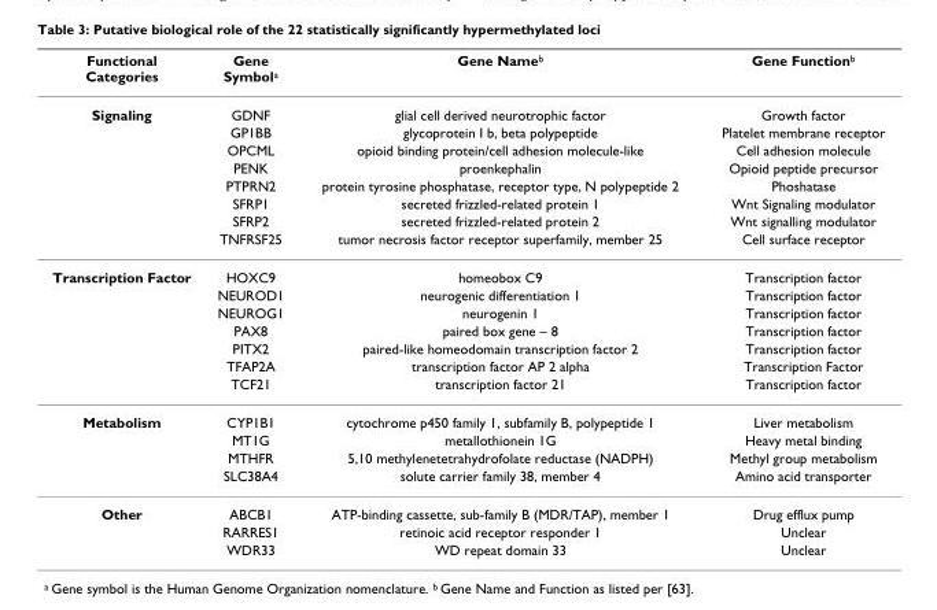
<table><thead><tr><td>Functional Categories</td><td>Gene Symbol<sup>a</sup></td><td>Gene Name<sup>b</sup></td><td>Gene Function<sup>b</sup></td></tr></thead><tbody><tr><td rowspan="8">Signaling</td><td>GDNF</td><td>glial cell derived neurotrophic factor</td><td>Growth factor</td></tr><tr><td>GP1BB</td><td>glycoprotein I b, beta polypeptide</td><td>Platelet membrane receptor</td></tr><tr><td>OPCML</td><td>opioid binding protein/cell adhesion molecule-like</td><td>Cell adhesion molecule</td></tr><tr><td>PENK</td><td>proenkephalin</td><td>Opioid peptide precursor</td></tr><tr><td>PTPRN2</td><td>protein tyrosine phosphatase, receptor type, N polypeptide 2</td><td>Phoshatase</td></tr><tr><td>SFRP1</td><td>secreted frizzled-related protein 1</td><td>Wnt Signaling modulator</td></tr><tr><td>SFRP2</td><td>secreted frizzled-related protein 2</td><td>Wnt signalling modulator</td></tr><tr><td>TNFRSF25</td><td>tumor necrosis factor receptor superfamily, member 25</td><td>Cell surface receptor</td></tr><tr><td rowspan="7">Transcription Factor</td><td>HOXC9</td><td>homeobox C9</td><td>Transcription factor</td></tr><tr><td>NEUROD1</td><td>neurogenic differentiation 1</td><td>Transcription factor</td></tr><tr><td>NEUROG1</td><td>neurogenin 1</td><td>Transcription factor</td></tr><tr><td>PAX8</td><td>paired box gene – 8</td><td>Transcription factor</td></tr><tr><td>PITX2</td><td>paired-like homeodomain transcription factor 2</td><td>Transcription factor</td></tr><tr><td>TFAP2A</td><td>transcription factor AP 2 alpha</td><td>Transcription Factor</td></tr><tr><td>TCF21</td><td>transcription factor 21</td><td>Transcription factor</td></tr><tr><td rowspan="4">Metabolism</td><td>CYP1B1</td><td>cytochrome p450 family 1, subfamily B, polypeptide 1</td><td>Liver metabolism</td></tr><tr><td>MT1G</td><td>metallothionein 1G</td><td>Heavy metal binding</td></tr><tr><td>MTHFR</td><td>5,10 methylenetetrahydrofolate reductase (NADPH)</td><td>Methyl group metabolism</td></tr><tr><td>SLC38A4</td><td>solute carrier family 38, member 4</td><td>Amino acid transporter</td></tr><tr><td rowspan="3">Other</td><td>ABCB1</td><td>ATP-binding cassette, sub-family B (MDR/TAP), member 1</td><td>Drug efflux pump</td></tr><tr><td>RARRES1</td><td>retinoic acid receptor responder 1</td><td>Unclear</td></tr><tr><td>WDR33</td><td>WD repeat domain 33</td><td>Unclear</td></tr></tbody></table>